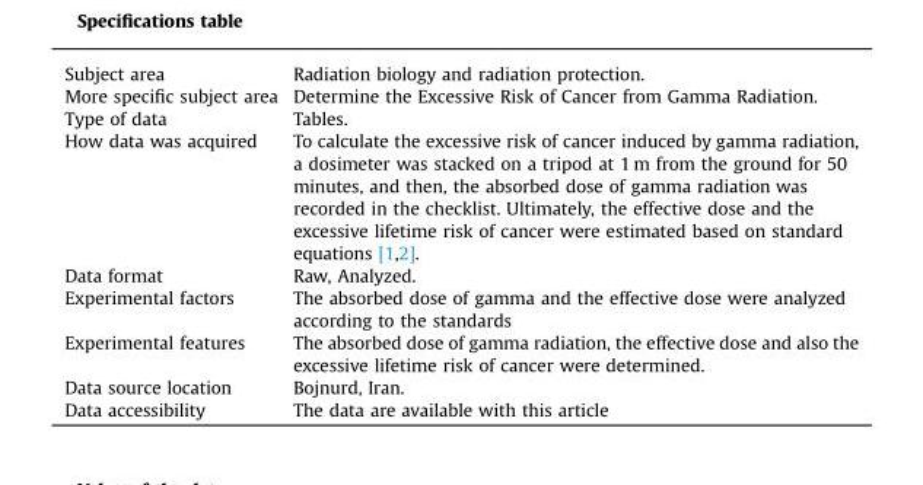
<table><tbody><tr><td>Subject area</td><td>Radiation biology and radiation protection.</td></tr><tr><td>More specific subject area</td><td>Determine the Excessive Risk of Cancer from Gamma Radiation.</td></tr><tr><td>Type of data</td><td>Tables.</td></tr><tr><td>How data was acquired</td><td>To calculate the excessive risk of cancer induced by gamma radiation, a dosimeter was stacked on a tripod at 1 m from the ground for 50 minutes, and then, the absorbed dose of gamma radiation was recorded in the checklist. Ultimately, the effective dose and the excessive lifetime risk of cancer were estimated based on standard equations [1,2].</td></tr><tr><td>Data format</td><td>Raw, Analyzed.</td></tr><tr><td>Experimental factors</td><td>The absorbed dose of gamma and the effective dose were analyzed according to the standards</td></tr><tr><td>Experimental features</td><td>The absorbed dose of gamma radiation, the effective dose and also the excessive lifetime risk of cancer were determined.</td></tr><tr><td>Data source location</td><td>Bojnurd, Iran.</td></tr><tr><td>Data accessibility</td><td>The data are available with this article</td></tr></tbody></table>